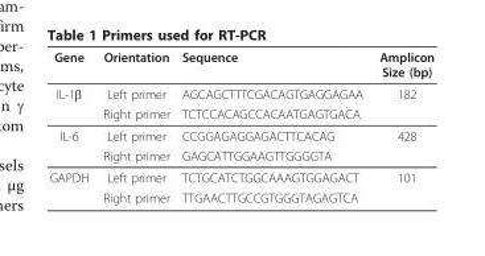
<table><thead><tr><td>Gene</td><td>Orientation</td><td>Sequence</td><td>Amplicon Size (bp)</td></tr></thead><tbody><tr><td rowspan="2">IL-1β</td><td>Left primer</td><td>AGCAGCTTTCGACAGTGAGGAGAA</td><td>182</td></tr><tr><td>Right primer</td><td>TCTCCACAGCCACAATGAGTGACA</td><td></td></tr><tr><td rowspan="2">IL-6</td><td>Left primer</td><td>CCGGAGAGGAGACTTCACAG</td><td>428</td></tr><tr><td>Right primer</td><td>GAGCATTGGAAGTTGGGGTA</td><td></td></tr><tr><td rowspan="2">GAPDH</td><td>Left primer</td><td>TCTGCATCTGGCAAAGTGGAGACT</td><td>101</td></tr><tr><td>Right primer</td><td>TTGAACTTGCCGTGGGTAGAGTCA</td><td></td></tr></tbody></table>